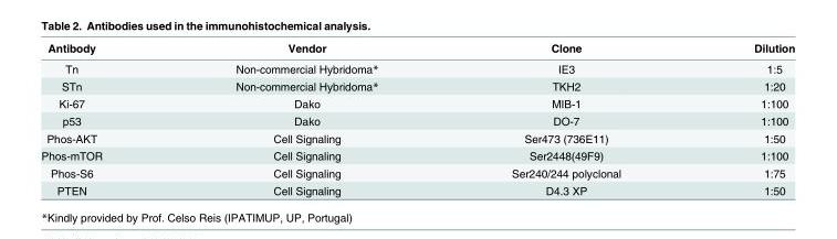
<table><thead><tr><td>Antibody</td><td>Vendor</td><td>Clone</td><td>Dilution</td></tr></thead><tbody><tr><td>Tn</td><td>Non-commercial Hybridoma*</td><td>IE3</td><td>1:5</td></tr><tr><td>STn</td><td>Non-commercial Hybridoma*</td><td>TKH2</td><td>1:20</td></tr><tr><td>Ki-67</td><td>Dako</td><td>MIB-1</td><td>1:100</td></tr><tr><td>p53</td><td>Dako</td><td>DO-7</td><td>1:100</td></tr><tr><td>Phos-AKT</td><td>Cell Signaling</td><td>Ser473 (736E11)</td><td>1:50</td></tr><tr><td>Phos-mTOR</td><td>Cell Signaling</td><td>Ser2448(49F9)</td><td>1:100</td></tr><tr><td>Phos-S6</td><td>Cell Signaling</td><td>Ser240/244 polyclonal</td><td>1:75</td></tr><tr><td>PTEN</td><td>Cell Signaling</td><td>D4.3 XP</td><td>1:50</td></tr></tbody></table>